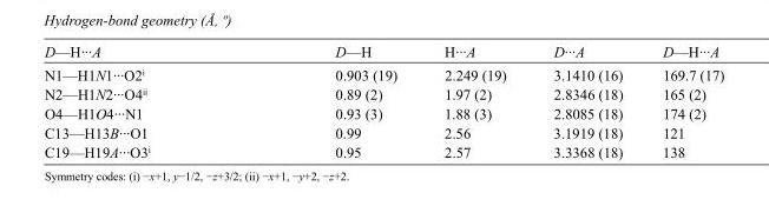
<table><tbody><tr><td>D—H···A</td><td>D—H</td><td>H···A</td><td>D···A</td><td>D—H···A</td></tr><tr><td>N1—H1N1···O2<sup>i</sup></td><td>0.903 (19)</td><td>2.249 (19)</td><td>3.1410 (16)</td><td>169.7 (17)</td></tr><tr><td>N2—H1N2···O4<sup>ii</sup></td><td>0.89 (2)</td><td>1.97 (2)</td><td>2.8346 (18)</td><td>165 (2)</td></tr><tr><td>O4—H1O4···N1</td><td>0.93 (3)</td><td>1.88 (3)</td><td>2.8085 (18)</td><td>174 (2)</td></tr><tr><td>C13—H13B···O1</td><td>0.99</td><td>2.56</td><td>3.1919 (18)</td><td>121</td></tr><tr><td>C19—H19A···O3<sup>i</sup></td><td>0.95</td><td>2.57</td><td>3.3368 (18)</td><td>138</td></tr></tbody></table>